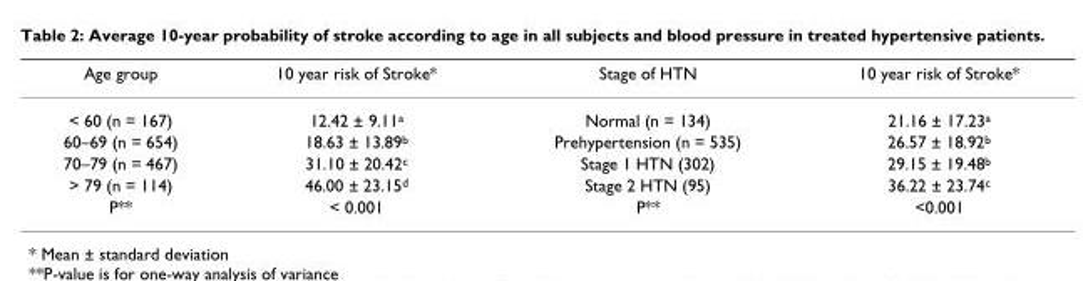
<table><thead><tr><td>Age group</td><td>10 year risk of Stroke*</td><td>Stage of HTN</td><td>10 year risk of Stroke*</td></tr></thead><tbody><tr><td>&lt; 60 (n = 167)</td><td>12.42 ± 9.11<sup>a</sup></td><td>Normal (n = 134)</td><td>21.16 ± 17.23<sup>a</sup></td></tr><tr><td>60–69 (n = 654)</td><td>18.63 ± 13.89<sup>b</sup></td><td>Prehypertension (n = 535)</td><td>26.57 ± 18.92<sup>b</sup></td></tr><tr><td>70–79 (n = 467)</td><td>31.10 ± 20.42<sup>c</sup></td><td>Stage 1 HTN (302)</td><td>29.15 ± 19.48<sup>b</sup></td></tr><tr><td>&gt; 79 (n = 114)</td><td>46.00 ± 23.15<sup>d</sup></td><td>Stage 2 HTN (95)</td><td>36.22 ± 23.74<sup>c</sup></td></tr><tr><td>P**</td><td>&lt; 0.001</td><td>P**</td><td>&lt;0.001</td></tr></tbody></table>